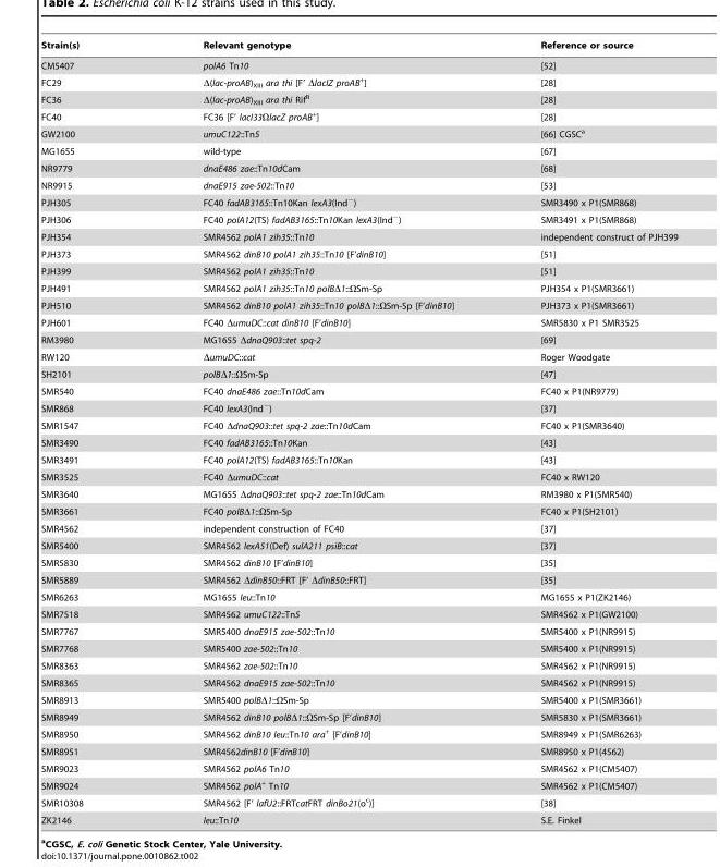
<table><thead><tr><td>Strain(s)</td><td>Relevant genotype</td><td>Reference or source</td></tr></thead><tbody><tr><td>CM5407</td><td>polA6 Tn10</td><td>[52]</td></tr><tr><td>FC29</td><td>Δ(lac-proAB)<sub>XIII</sub> ara thi [F’ ΔlacIZ proAB<sup>+</sup>]</td><td>[28]</td></tr><tr><td>FC36</td><td>Δ(lac-proAB)<sub>XIII</sub> ara thi Rif<sup>R</sup></td><td>[28]</td></tr><tr><td>FC40</td><td>FC36 [F’ lacI33ΩlacZ proAB<sup>+</sup>]</td><td>[28]</td></tr><tr><td>GW2100</td><td>umuC122::Tn5</td><td>[66] CGSC<sup>a</sup></td></tr><tr><td>MG1655</td><td>wild-type</td><td>[67]</td></tr><tr><td>NR9779</td><td>dnaE486 zae::Tn10dCam</td><td>[68]</td></tr><tr><td>NR9915</td><td>dnaE915 zae-502::Tn10</td><td>[53]</td></tr><tr><td>PJH305</td><td>FC40 fadAB3165::Tn10Kan lexA3(Ind<sup>−</sup>)</td><td>SMR3490 x P1(SMR868)</td></tr><tr><td>PJH306</td><td>FC40 polA12(TS) fadAB3165::Tn10Kan lexA3(Ind<sup>−</sup>)</td><td>SMR3491 x P1(SMR868)</td></tr><tr><td>PJH354</td><td>SMR4562 polA1 zih35::Tn10</td><td>independent construct of PJH399</td></tr><tr><td>PJH373</td><td>SMR4562 dinB10 polA1 zih35::Tn10 [F’dinB10]</td><td>[51]</td></tr><tr><td>PJH399</td><td>SMR4562 polA1 zih35::Tn10</td><td>[51]</td></tr><tr><td>PJH491</td><td>SMR4562 polA1 zih35::Tn10 polBΔ1::ΩSm-Sp</td><td>PJH354 x P1(SMR3661)</td></tr><tr><td>PJH510</td><td>SMR4562 dinB10 polA1 zih35::Tn10 polBΔ1::ΩSm-Sp [F’dinB10]</td><td>PJH373 x P1(SMR3661)</td></tr><tr><td>PJH601</td><td>FC40 ΔumuDC::cat dinB10 [F’dinB10]</td><td>SMR5830 x P1 SMR3525</td></tr><tr><td>RM3980</td><td>MG1655 ΔdnaQ903::tet spq-2</td><td>[69]</td></tr><tr><td>RW120</td><td>ΔumuDC::cat</td><td>Roger Woodgate</td></tr><tr><td>SH2101</td><td>polBΔ1::ΩSm-Sp</td><td>[47]</td></tr><tr><td>SMR540</td><td>FC40 dnaE486 zae::Tn10dCam</td><td>FC40 x P1(NR9779)</td></tr><tr><td>SMR868</td><td>FC40 lexA3(Ind<sup>−</sup>)</td><td>[37]</td></tr><tr><td>SMR1547</td><td>FC40 ΔdnaQ903::tet spq-2 zae::Tn10dCam</td><td>FC40 x P1(SMR3640)</td></tr><tr><td>SMR3490</td><td>FC40 fadAB3165::Tn10Kan</td><td>[43]</td></tr><tr><td>SMR3491</td><td>FC40 polA12(TS) fadAB3165::Tn10Kan</td><td>[43]</td></tr><tr><td>SMR3525</td><td>FC40 ΔumuDC::cat</td><td>FC40 x RW120</td></tr><tr><td>SMR3640</td><td>MG1655 ΔdnaQ903::tet spq-2 zae::Tn10dCam</td><td>RM3980 x P1(SMR540)</td></tr><tr><td>SMR3661</td><td>FC40 polBΔ1::ΩSm-Sp</td><td>FC40 x P1(SH2101)</td></tr><tr><td>SMR4562</td><td>independent construction of FC40</td><td>[37]</td></tr><tr><td>SMR5400</td><td>SMR4562 lexA51(Def) sulA211 psiB::cat</td><td>[37]</td></tr><tr><td>SMR5830</td><td>SMR4562 dinB10 [F’dinB10]</td><td>[35]</td></tr><tr><td>SMR5889</td><td>SMR4562 ΔdinB50::FRT [F’ ΔdinB50::FRT]</td><td>[35]</td></tr><tr><td>SMR6263</td><td>MG1655 leu::Tn10</td><td>MG1655 x P1(ZK2146)</td></tr><tr><td>SMR7518</td><td>SMR4562 umuC122::Tn5</td><td>SMR4562 x P1(GW2100)</td></tr><tr><td>SMR7767</td><td>SMR5400 dnaE915 zae-502::Tn10</td><td>SMR5400 x P1(NR9915)</td></tr><tr><td>SMR7768</td><td>SMR5400 zae-502::Tn10</td><td>SMR5400 x P1(NR9915)</td></tr><tr><td>SMR8363</td><td>SMR4562 zae-502::Tn10</td><td>SMR4562 x P1(NR9915)</td></tr><tr><td>SMR8365</td><td>SMR4562 dnaE915 zae-502::Tn10</td><td>SMR4562 x P1(NR9915)</td></tr><tr><td>SMR8913</td><td>SMR5400 polBΔ1::ΩSm-Sp</td><td>SMR5400 x P1(SMR3661)</td></tr><tr><td>SMR8949</td><td>SMR4562 dinB10 polBΔ1::ΩSm-Sp [F’dinB10]</td><td>SMR5830 x P1(SMR3661)</td></tr><tr><td>SMR8950</td><td>SMR4562 dinB10 leu::Tn10 ara<sup>+</sup> [F’dinB10]</td><td>SMR8949 x P1(SMR6263)</td></tr><tr><td>SMR8951</td><td>SMR4562dinB10 [F’dinB10]</td><td>SMR8950 x P1(4562)</td></tr><tr><td>SMR9023</td><td>SMR4562 polA6 Tn10</td><td>SMR4562 x P1(CM5407)</td></tr><tr><td>SMR9024</td><td>SMR4562 polA<sup>+</sup> Tn10</td><td>SMR4562 x P1(CM5407)</td></tr><tr><td>SMR10308</td><td>SMR4562 [F’ lafU2::FRTcatFRT dinBo21(o<sup>c</sup>)]</td><td>[38]</td></tr><tr><td>ZK2146</td><td>leu::Tn10</td><td>S.E. Finkel</td></tr></tbody></table>